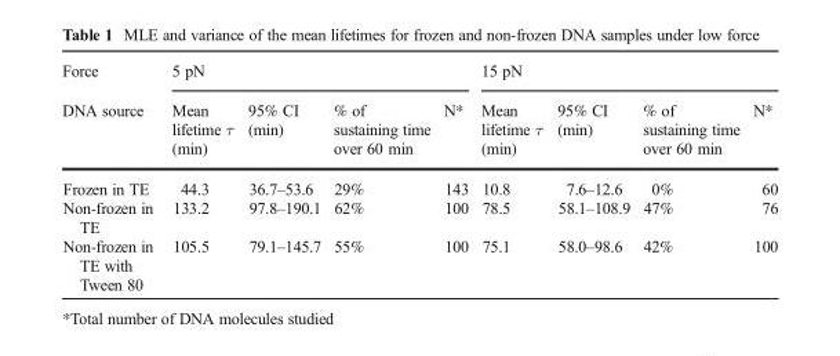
<table><thead><tr><td rowspan="2">Force DNA source</td><td colspan="4">5 pN</td><td colspan="4">15 pN</td></tr><tr><td>Mean lifetime τ (min)</td><td>95% CI (min)</td><td>% of sustaining time over 60 min</td><td>N*</td><td>Mean lifetime τ (min)</td><td>95% CI (min)</td><td>% of sustaining time over 60 min</td><td>N*</td></tr></thead><tbody><tr><td>Frozen in TE</td><td>44.3</td><td>36.7–53.6</td><td>29%</td><td>143</td><td>10.8</td><td>7.6–12.6</td><td>0%</td><td>60</td></tr><tr><td>Non-frozen in TE</td><td>133.2</td><td>97.8–190.1</td><td>62%</td><td>100</td><td>78.5</td><td>58.1–108.9</td><td>47%</td><td>76</td></tr><tr><td>Non-frozen in TE with Tween 80</td><td>105.5</td><td>79.1–145.7</td><td>55%</td><td>100</td><td>75.1</td><td>58.0–98.6</td><td>42%</td><td>100</td></tr></tbody></table>